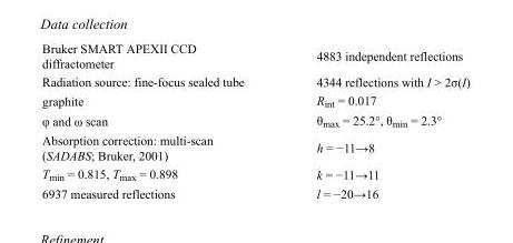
<table><tbody><tr><td>Bruker SMART APEXII CCD diffractometer</td><td>4883 independent reflections</td></tr><tr><td>Radiation source: fine-focus sealed tube</td><td>4344 reflections with I &gt; 2σ(I)</td></tr><tr><td>graphite</td><td>R<sub>int</sub> = 0.017</td></tr><tr><td>φ and ω scan</td><td>θ<sub>max</sub> = 25.2°, θ<sub>min</sub> = 2.3°</td></tr><tr><td>Absorption correction: multi-scan (SADABS; Bruker, 2001)</td><td>h = −11→8</td></tr><tr><td>T<sub>min</sub> = 0.815, T<sub>max</sub> = 0.898</td><td>k = −11→11</td></tr><tr><td>6937 measured reflections</td><td>l = −20→16</td></tr></tbody></table>